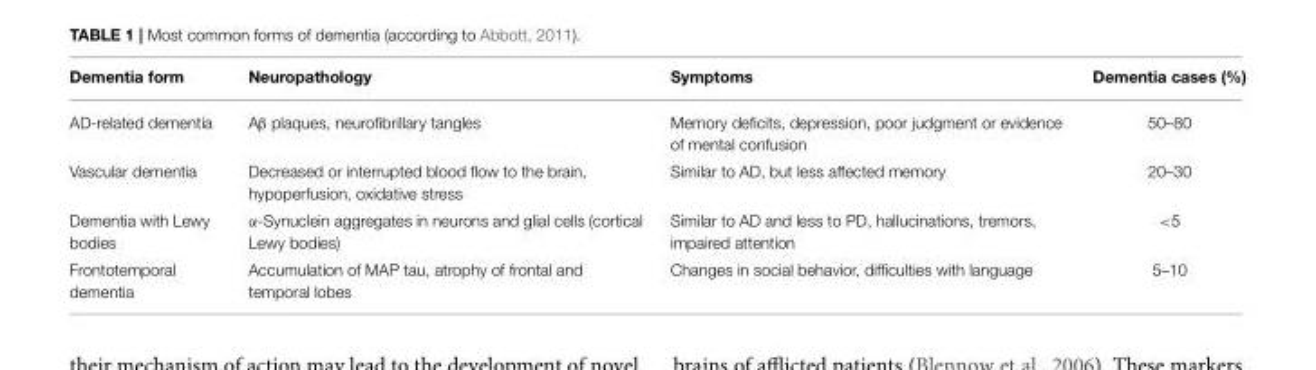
<table><thead><tr><td>Dementia form</td><td>Neuropathology</td><td>Symptoms</td><td>Dementia cases (%)</td></tr></thead><tbody><tr><td>AD-related dementia</td><td>Aβ plaques, neurofibrillary tangles</td><td>Memory deficits, depression, poor judgment or evidence of mental confusion</td><td>50–80</td></tr><tr><td>Vascular dementia</td><td>Decreased or interrupted blood flow to the brain, hypoperfusion, oxidative stress</td><td>Similar to AD, but less affected memory</td><td>20–30</td></tr><tr><td>Dementia with Lewy bodies</td><td>α-Synuclein aggregates in neurons and glial cells (cortical Lewy bodies)</td><td>Similar to AD and less to PD, hallucinations, tremors, impaired attention</td><td>&lt;5</td></tr><tr><td>Frontotemporal dementia</td><td>Accumulation of MAP tau, atrophy of frontal and temporal lobes</td><td>Changes in social behavior, difficulties with language</td><td>5–10</td></tr></tbody></table>